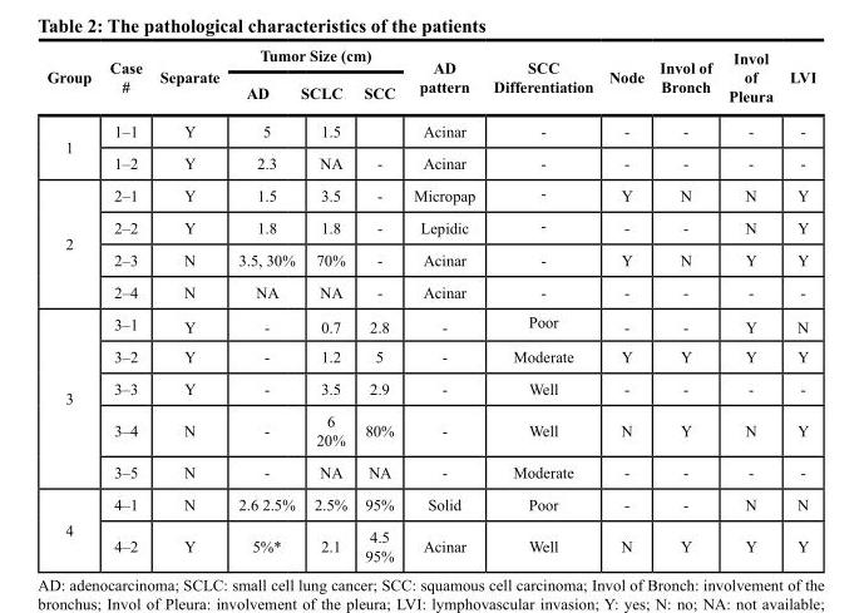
<table><thead><tr><td rowspan="2">Group</td><td rowspan="2">Case #</td><td rowspan="2">Separate</td><td colspan="3">Tumor Size (cm)</td><td rowspan="2">AD pattern</td><td rowspan="2">SCC Differentiation</td><td rowspan="2">Node</td><td rowspan="2">Invol of Bronch</td><td rowspan="2">Invol of Pleura</td><td rowspan="2">LVI</td></tr><tr><td>AD</td><td>SCLC</td><td>SCC</td></tr></thead><tbody><tr><td rowspan="2">1</td><td>1–1</td><td>Y</td><td>5</td><td>1.5</td><td></td><td>Acinar</td><td>-</td><td>-</td><td>-</td><td>-</td><td>-</td></tr><tr><td>1–2</td><td>Y</td><td>2.3</td><td>NA</td><td>-</td><td>Acinar</td><td>-</td><td>-</td><td>-</td><td>-</td><td>-</td></tr><tr><td rowspan="4">2</td><td>2–1</td><td>Y</td><td>1.5</td><td>3.5</td><td>-</td><td>Micropap</td><td>-</td><td>Y</td><td>N</td><td>N</td><td>Y</td></tr><tr><td>2–2</td><td>Y</td><td>1.8</td><td>1.8</td><td>-</td><td>Lepidic</td><td>-</td><td>-</td><td>-</td><td>N</td><td>Y</td></tr><tr><td>2–3</td><td>N</td><td>3.5, 30%</td><td>70%</td><td>-</td><td>Acinar</td><td>-</td><td>Y</td><td>N</td><td>Y</td><td>Y</td></tr><tr><td>2–4</td><td>N</td><td>NA</td><td>NA</td><td>-</td><td>Acinar</td><td>-</td><td>-</td><td>-</td><td>-</td><td>-</td></tr><tr><td rowspan="5">3</td><td>3–1</td><td>Y</td><td>-</td><td>0.7</td><td>2.8</td><td>-</td><td>Poor</td><td>-</td><td>-</td><td>Y</td><td>N</td></tr><tr><td>3–2</td><td>Y</td><td>-</td><td>1.2</td><td>5</td><td>-</td><td>Moderate</td><td>Y</td><td>Y</td><td>Y</td><td>Y</td></tr><tr><td>3–3</td><td>Y</td><td>-</td><td>3.5</td><td>2.9</td><td>-</td><td>Well</td><td>-</td><td>-</td><td>-</td><td>-</td></tr><tr><td>3–4</td><td>N</td><td>-</td><td>6 20%</td><td>80%</td><td>-</td><td>Well</td><td>N</td><td>Y</td><td>N</td><td>Y</td></tr><tr><td>3–5</td><td>N</td><td>-</td><td>NA</td><td>NA</td><td>-</td><td>Moderate</td><td>-</td><td>-</td><td>-</td><td>-</td></tr><tr><td rowspan="2">4</td><td>4–1</td><td>N</td><td>2.6 2.5%</td><td>2.5%</td><td>95%</td><td>Solid</td><td>Poor</td><td>-</td><td>-</td><td>N</td><td>N</td></tr><tr><td>4–2</td><td>Y</td><td>5%*</td><td>2.1</td><td>4.5 95%</td><td>Acinar</td><td>Well</td><td>N</td><td>Y</td><td>Y</td><td>Y</td></tr></tbody></table>